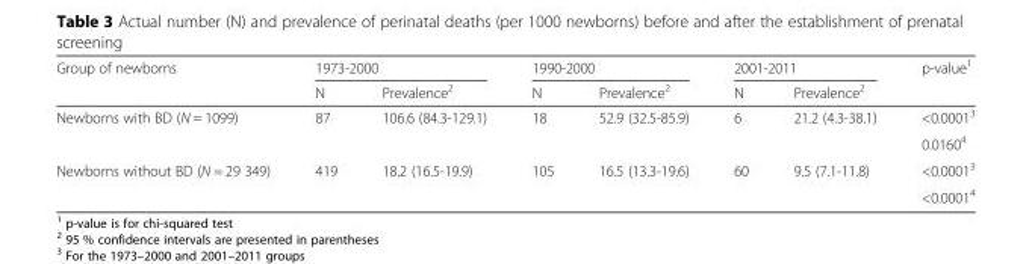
<table><thead><tr><td rowspan="2">Group of newborns</td><td colspan="2">1973-2000</td><td colspan="2">1990-2000</td><td colspan="2">2001-2011</td><td rowspan="2">p-value<sup>1</sup></td></tr><tr><td>N</td><td>Prevalence<sup>2</sup></td><td>N</td><td>Prevalence<sup>2</sup></td><td>N</td><td>Prevalence<sup>2</sup></td></tr></thead><tbody><tr><td rowspan="2">Newborns with BD (N = 1099)</td><td rowspan="2">87</td><td rowspan="2">106.6 (84.3-129.1)</td><td rowspan="2">18</td><td rowspan="2">52.9 (32.5-85.9)</td><td rowspan="2">6</td><td rowspan="2">21.2 (4.3-38.1)</td><td>&lt;0.0001<sup>3</sup></td></tr><tr><td>0.0160<sup>4</sup></td></tr><tr><td rowspan="2">Newborns without BD (N = 29 349)</td><td rowspan="2">419</td><td rowspan="2">18.2 (16.5-19.9)</td><td rowspan="2">105</td><td rowspan="2">16.5 (13.3-19.6)</td><td rowspan="2">60</td><td rowspan="2">9.5 (7.1-11.8)</td><td>&lt;0.0001<sup>3</sup></td></tr><tr><td>&lt;0.0001<sup>4</sup></td></tr></tbody></table>